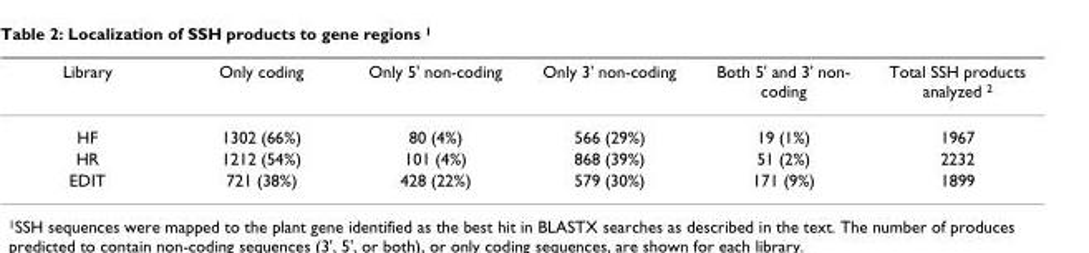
<table><thead><tr><td>Library</td><td>Only coding</td><td>Only 5&#x27; non-coding</td><td>Only 3&#x27; non-coding</td><td>Both 5&#x27; and 3&#x27; non- coding</td><td>Total SSH products analyzed 2</td></tr></thead><tbody><tr><td>HF</td><td>1302 (66%)</td><td>80 (4%)</td><td>566 (29%)</td><td>19 (1%)</td><td>1967</td></tr><tr><td>HR</td><td>1212 (54%)</td><td>101 (4%)</td><td>868 (39%)</td><td>51 (2%)</td><td>2232</td></tr><tr><td>EDIT</td><td>721 (38%)</td><td>428 (22%)</td><td>579 (30%)</td><td>171 (9%)</td><td>1899</td></tr></tbody></table>